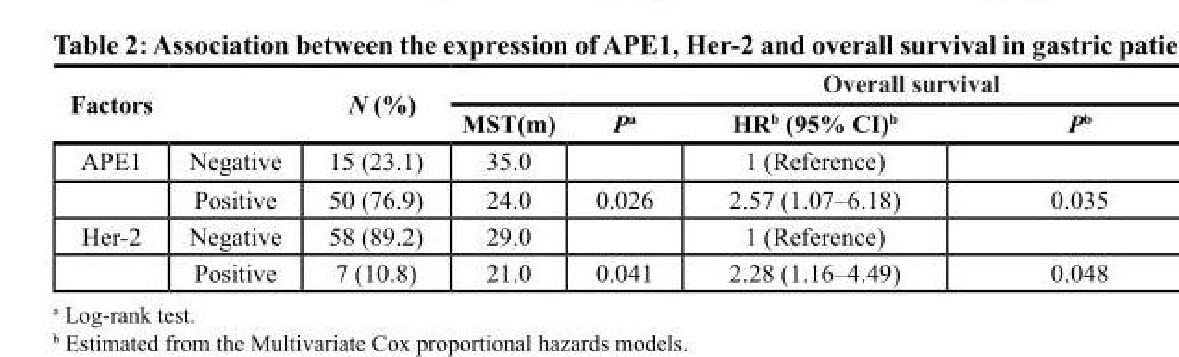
<table><thead><tr><td rowspan="2">Factors</td><td rowspan="2"></td><td rowspan="2">N (%)</td><td colspan="4">Overall survival</td></tr><tr><td>MST(m)</td><td>P<sup>a</sup></td><td>HR<sup>b</sup> (95% CI)<sup>b</sup></td><td>P<sup>b</sup></td></tr></thead><tbody><tr><td rowspan="2">APE1</td><td>Negative</td><td>15 (23.1)</td><td>35.0</td><td></td><td>1 (Reference)</td><td></td></tr><tr><td>Positive</td><td>50 (76.9)</td><td>24.0</td><td>0.026</td><td>2.57 (1.07–6.18)</td><td>0.035</td></tr><tr><td rowspan="2">Her-2</td><td>Negative</td><td>58 (89.2)</td><td>29.0</td><td></td><td>1 (Reference)</td><td></td></tr><tr><td>Positive</td><td>7 (10.8)</td><td>21.0</td><td>0.041</td><td>2.28 (1.16–4.49)</td><td>0.048</td></tr></tbody></table>